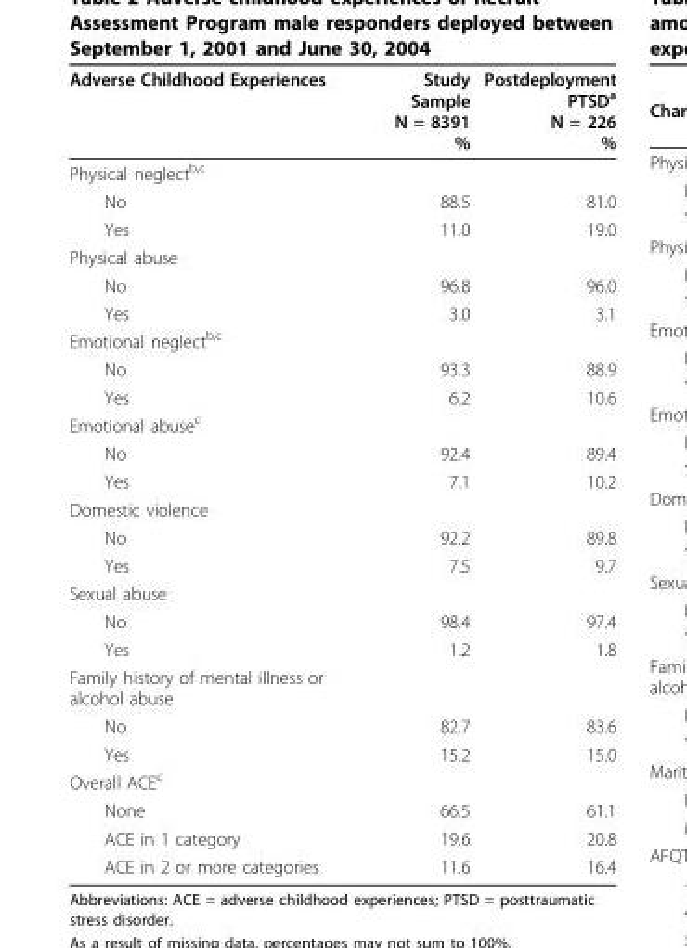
<table><thead><tr><td>Adverse Childhood Experiences</td><td>Study Sample N = 8391 %</td><td>Postdeployment PTSD<sup>a</sup> N = 226 %</td></tr></thead><tbody><tr><td colspan="3">Physical neglect<sup>b,c</sup></td></tr><tr><td>No</td><td>88.5</td><td>81.0</td></tr><tr><td>Yes</td><td>11.0</td><td>19.0</td></tr><tr><td colspan="3">Physical abuse</td></tr><tr><td>No</td><td>96.8</td><td>96.0</td></tr><tr><td>Yes</td><td>3.0</td><td>3.1</td></tr><tr><td colspan="3">Emotional neglect<sup>b,c</sup></td></tr><tr><td>No</td><td>93.3</td><td>88.9</td></tr><tr><td>Yes</td><td>6.2</td><td>10.6</td></tr><tr><td colspan="3">Emotional abuse<sup>c</sup></td></tr><tr><td>No</td><td>92.4</td><td>89.4</td></tr><tr><td>Yes</td><td>7.1</td><td>10.2</td></tr><tr><td colspan="3">Domestic violence</td></tr><tr><td>No</td><td>92.2</td><td>89.8</td></tr><tr><td>Yes</td><td>7.5</td><td>9.7</td></tr><tr><td colspan="3">Sexual abuse</td></tr><tr><td>No</td><td>98.4</td><td>97.4</td></tr><tr><td>Yes</td><td>1.2</td><td>1.8</td></tr><tr><td colspan="3">Family history of mental illness or alcohol abuse</td></tr><tr><td>No</td><td>82.7</td><td>83.6</td></tr><tr><td>Yes</td><td>15.2</td><td>15.0</td></tr><tr><td colspan="3">Overall ACE<sup>c</sup></td></tr><tr><td>None</td><td>66.5</td><td>61.1</td></tr><tr><td>ACE in 1 category</td><td>19.6</td><td>20.8</td></tr><tr><td>ACE in 2 or more categories</td><td>11.6</td><td>16.4</td></tr></tbody></table>